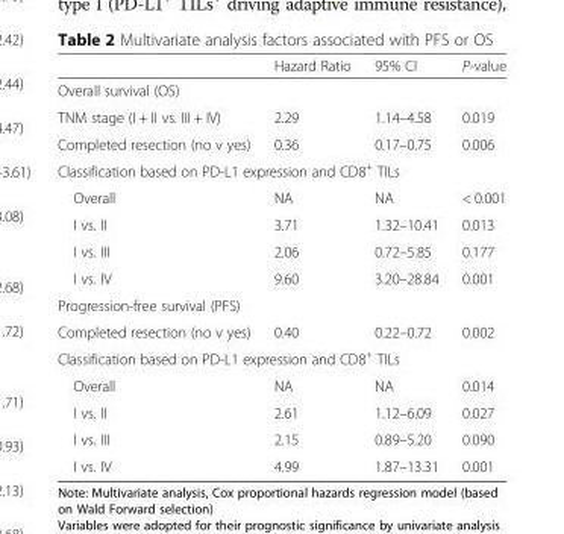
<table><thead><tr><td></td><td>Hazard Ratio</td><td>95% CI</td><td>P-value</td></tr></thead><tbody><tr><td colspan="4">Overall survival (OS)</td></tr><tr><td>TNM stage (I + II vs. III + IV)</td><td>2.29</td><td>1.14–4.58</td><td>0.019</td></tr><tr><td>Completed resection (no v yes)</td><td>0.36</td><td>0.17–0.75</td><td>0.006</td></tr><tr><td colspan="4">Classification based on PD-L1 expression and CD8<sup>+</sup> TILs</td></tr><tr><td>Overall</td><td>NA</td><td>NA</td><td>&lt; 0.001</td></tr><tr><td>I vs. II</td><td>3.71</td><td>1.32–10.41</td><td>0.013</td></tr><tr><td>I vs. III</td><td>2.06</td><td>0.72–5.85</td><td>0.177</td></tr><tr><td>I vs. IV</td><td>9.60</td><td>3.20–28.84</td><td>0.001</td></tr><tr><td colspan="4">Progression-free survival (PFS)</td></tr><tr><td>Completed resection (no v yes)</td><td>0.40</td><td>0.22–0.72</td><td>0.002</td></tr><tr><td colspan="4">Classification based on PD-L1 expression and CD8<sup>+</sup> TILs</td></tr><tr><td>Overall</td><td>NA</td><td>NA</td><td>0.014</td></tr><tr><td>I vs. II</td><td>2.61</td><td>1.12–6.09</td><td>0.027</td></tr><tr><td>I vs. III</td><td>2.15</td><td>0.89–5.20</td><td>0.090</td></tr><tr><td>I vs. IV</td><td>4.99</td><td>1.87–13.31</td><td>0.001</td></tr></tbody></table>